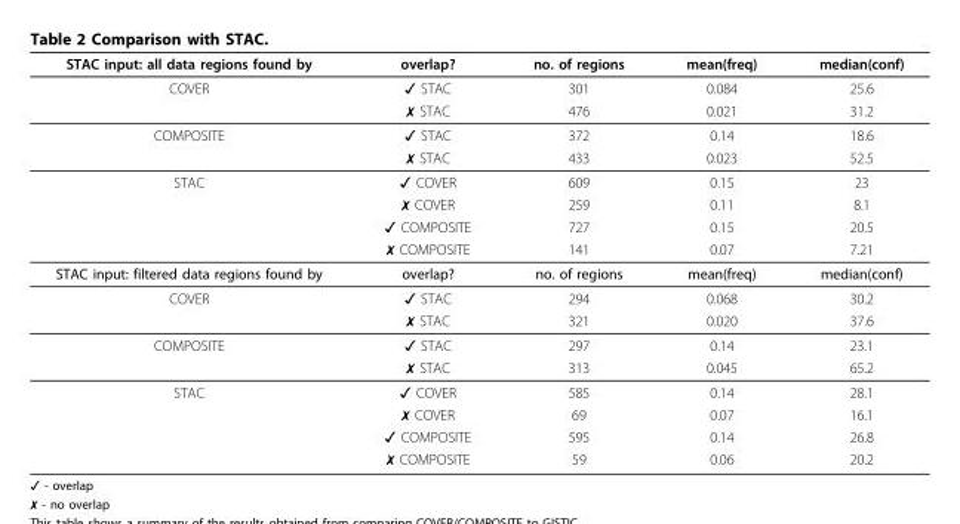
<table><thead><tr><td>STAC input: all data regions found by</td><td>overlap?</td><td>no. of regions</td><td>mean(freq)</td><td>median(conf)</td></tr></thead><tbody><tr><td rowspan="2">COVER</td><td>✓ STAC</td><td>301</td><td>0.084</td><td>25.6</td></tr><tr><td>✗ STAC</td><td>476</td><td>0.021</td><td>31.2</td></tr><tr><td rowspan="2">COMPOSITE</td><td>✓ STAC</td><td>372</td><td>0.14</td><td>18.6</td></tr><tr><td>✗ STAC</td><td>433</td><td>0.023</td><td>52.5</td></tr><tr><td rowspan="4">STAC</td><td>✓ COVER</td><td>609</td><td>0.15</td><td>23</td></tr><tr><td>✗ COVER</td><td>259</td><td>0.11</td><td>8.1</td></tr><tr><td>✓ COMPOSITE</td><td>727</td><td>0.15</td><td>20.5</td></tr><tr><td>✗ COMPOSITE</td><td>141</td><td>0.07</td><td>7.21</td></tr><tr><td>STAC input: filtered data regions found by</td><td>overlap?</td><td>no. of regions</td><td>mean(freq)</td><td>median(conf)</td></tr><tr><td rowspan="2">COVER</td><td>✓ STAC</td><td>294</td><td>0.068</td><td>30.2</td></tr><tr><td>✗ STAC</td><td>321</td><td>0.020</td><td>37.6</td></tr><tr><td rowspan="2">COMPOSITE</td><td>✓ STAC</td><td>297</td><td>0.14</td><td>23.1</td></tr><tr><td>✗ STAC</td><td>313</td><td>0.045</td><td>65.2</td></tr><tr><td rowspan="4">STAC</td><td>✓ COVER</td><td>585</td><td>0.14</td><td>28.1</td></tr><tr><td>✗ COVER</td><td>69</td><td>0.07</td><td>16.1</td></tr><tr><td>✓ COMPOSITE</td><td>595</td><td>0.14</td><td>26.8</td></tr><tr><td>✗ COMPOSITE</td><td>59</td><td>0.06</td><td>20.2</td></tr></tbody></table>